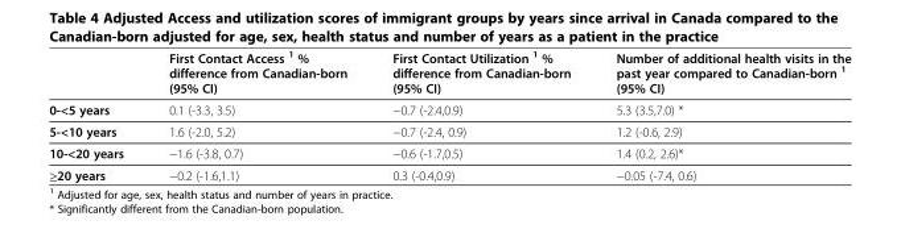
<table><thead><tr><td></td><td>First Contact Access <sup>1</sup> % difference from Canadian-born (95% CI)</td><td>First Contact Utilization <sup>1</sup> % difference from Canadian-born (95% CI)</td><td>Number of additional health visits in the past year compared to Canadian-born <sup>1</sup> (95% CI)</td></tr></thead><tbody><tr><td>0-&lt;5 years</td><td>0.1 (-3.3, 3.5)</td><td>−0.7 (-2.4,0.9)</td><td>5.3 (3.5,7.0) *</td></tr><tr><td>5-&lt;10 years</td><td>1.6 (-2.0, 5.2)</td><td>−0.7 (-2.4, 0.9)</td><td>1.2 (-0.6, 2.9)</td></tr><tr><td>10-&lt;20 years</td><td>−1.6 (-3.8, 0.7)</td><td>−0.6 (-1.7,0.5)</td><td>1.4 (0.2, 2.6)*</td></tr><tr><td>≥20 years</td><td>−0.2 (-1.6,1.1)</td><td>0.3 (-0.4,0.9)</td><td>−0.05 (-7.4, 0.6)</td></tr></tbody></table>